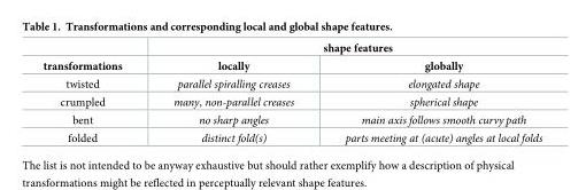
<table><thead><tr><td rowspan="2">transformations</td><td colspan="2">shape features</td></tr><tr><td>locally</td><td>globally</td></tr></thead><tbody><tr><td>twisted</td><td>parallel spiralling creases</td><td>elongated shape</td></tr><tr><td>crumpled</td><td>many, non-parallel creases</td><td>spherical shape</td></tr><tr><td>bent</td><td>no sharp angles</td><td>main axis follows smooth curvy path</td></tr><tr><td>folded</td><td>distinct fold(s)</td><td>parts meeting at (acute) angles at local folds</td></tr></tbody></table>